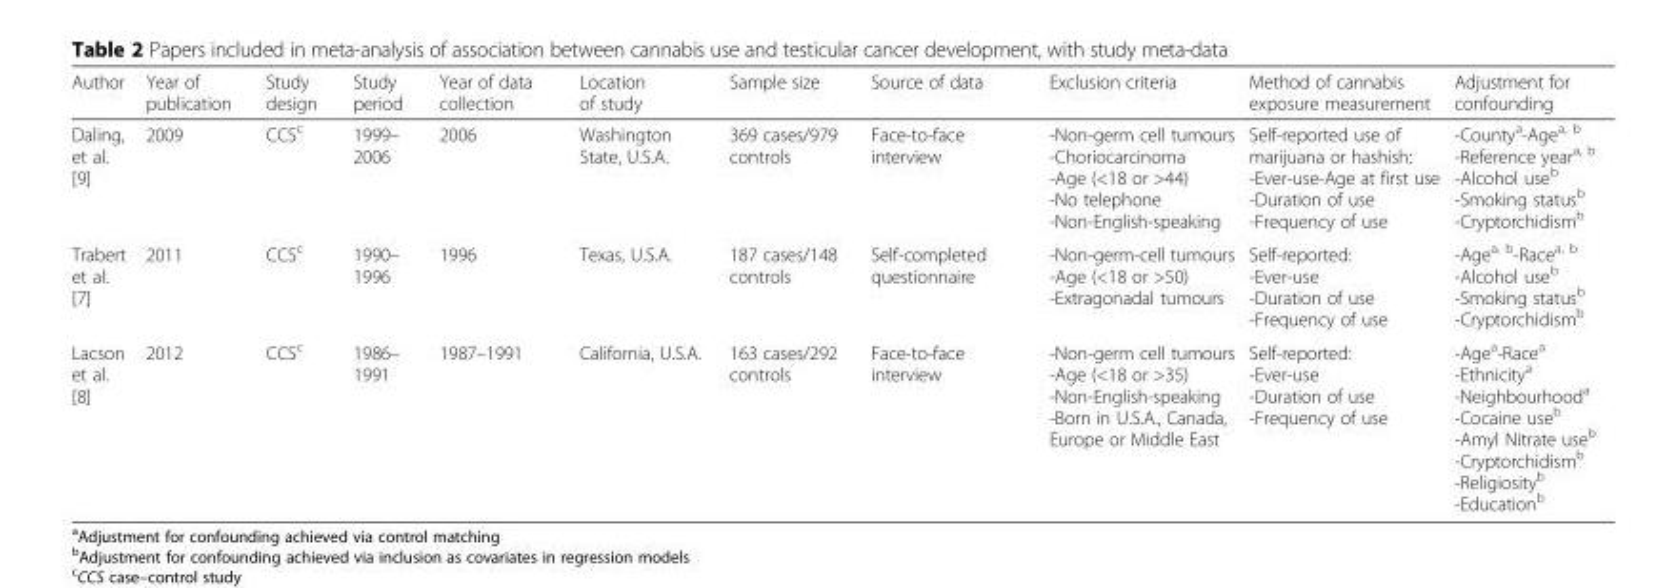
<table><thead><tr><td>Author</td><td>Year of publication</td><td>Study design</td><td>Study period</td><td>Year of data collection</td><td>Location of study</td><td>Sample size</td><td>Source of data</td><td>Exclusion criteria</td><td>Method of cannabis exposure measurement</td><td>Adjustment for confounding</td></tr></thead><tbody><tr><td>Daling, et al. [9]</td><td>2009</td><td>CCS<sup>c</sup></td><td>1999– 2006</td><td>2006</td><td>Washington State, U.S.A.</td><td>369 cases/979 controls</td><td>Face-to-face interview</td><td>-Non-germ cell tumours -Choriocarcinoma -Age (&lt;18 or &gt;44) -No telephone -Non-English-speaking</td><td>Self-reported use of marijuana or hashish: -Ever-use-Age at first use -Duration of use -Frequency of use</td><td>-County<sup>a</sup>-Age<sup>a, b</sup> -Reference year<sup>a, b</sup> -Alcohol use<sup>b</sup> -Smoking status<sup>b</sup> -Cryptorchidism<sup>b</sup></td></tr><tr><td>Trabert et al. [7]</td><td>2011</td><td>CCS<sup>c</sup></td><td>1990– 1996</td><td>1996</td><td>Texas, U.S.A.</td><td>187 cases/148 controls</td><td>Self-completed questionnaire</td><td>-Non-germ-cell tumours -Age (&lt;18 or &gt;50) -Extragonadal tumours</td><td>Self-reported: -Ever-use -Duration of use -Frequency of use</td><td>-Age<sup>a, b</sup>-Race<sup>a, b</sup> -Alcohol use<sup>b</sup> -Smoking status<sup>b</sup> -Cryptorchidism<sup>b</sup></td></tr><tr><td>Lacson et al. [8]</td><td>2012</td><td>CCS<sup>c</sup></td><td>1986– 1991</td><td>1987–1991</td><td>California, U.S.A.</td><td>163 cases/292 controls</td><td>Face-to-face interview</td><td>-Non-germ cell tumours -Age (&lt;18 or &gt;35) -Non-English-speaking -Born in U.S.A., Canada, Europe or Middle East</td><td>Self-reported: -Ever-use -Duration of use -Frequency of use</td><td>-Age<sup>a</sup>-Race<sup>a</sup> -Ethnicity<sup>a</sup> -Neighbourhood<sup>a</sup> -Cocaine use<sup>b</sup> -Amyl Nitrate use<sup>b</sup> -Cryptorchidism<sup>b</sup> -Religiosity<sup>b</sup> -Education<sup>b</sup></td></tr></tbody></table>